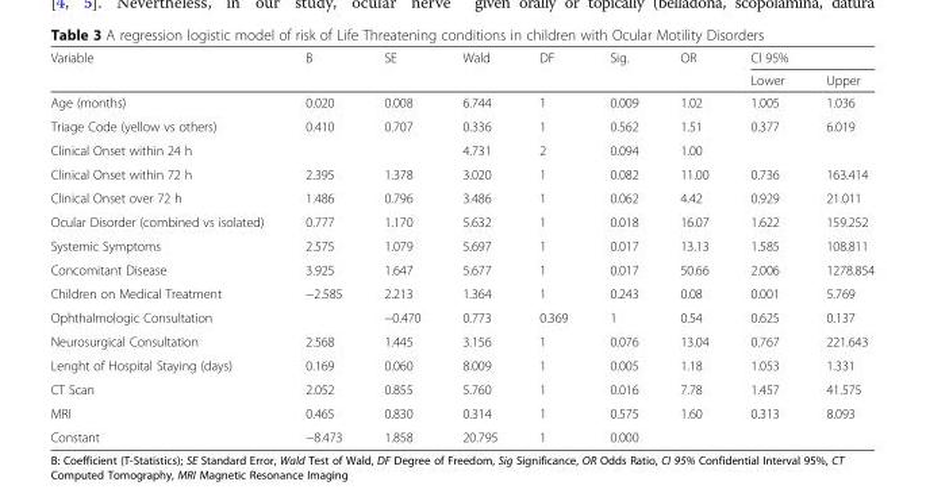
<table><thead><tr><td rowspan="2">Variable</td><td rowspan="2">B</td><td rowspan="2">SE</td><td rowspan="2">Wald</td><td rowspan="2">DF</td><td rowspan="2">Sig.</td><td rowspan="2">OR</td><td colspan="2">Cl 95%</td></tr><tr><td>Lower</td><td>Upper</td></tr></thead><tbody><tr><td>Age (months)</td><td>0.020</td><td>0.008</td><td>6.744</td><td>1</td><td>0.009</td><td>1.02</td><td>1.005</td><td>1.036</td></tr><tr><td>Triage Code (yellow vs others)</td><td>0.410</td><td>0.707</td><td>0.336</td><td>1</td><td>0.562</td><td>1.51</td><td>0.377</td><td>6.019</td></tr><tr><td>Clinical Onset within 24 h</td><td></td><td></td><td>4.731</td><td>2</td><td>0.094</td><td>1.00</td><td></td><td></td></tr><tr><td>Clinical Onset within 72 h</td><td>2.395</td><td>1.378</td><td>3.020</td><td>1</td><td>0.082</td><td>11.00</td><td>0.736</td><td>163.414</td></tr><tr><td>Clinical Onset over 72 h</td><td>1.486</td><td>0.796</td><td>3.486</td><td>1</td><td>0.062</td><td>4.42</td><td>0.929</td><td>21.011</td></tr><tr><td>Ocular Disorder (combined vs isolated)</td><td>0.777</td><td>1.170</td><td>5.632</td><td>1</td><td>0.018</td><td>16.07</td><td>1.622</td><td>159.252</td></tr><tr><td>Systemic Symptoms</td><td>2.575</td><td>1.079</td><td>5.697</td><td>1</td><td>0.017</td><td>13.13</td><td>1.585</td><td>108.811</td></tr><tr><td>Concomitant Disease</td><td>3.925</td><td>1.647</td><td>5.677</td><td>1</td><td>0.017</td><td>50.66</td><td>2.006</td><td>1278.854</td></tr><tr><td>Children on Medical Treatment</td><td>−2.585</td><td>2.213</td><td>1.364</td><td>1</td><td>0.243</td><td>0.08</td><td>0.001</td><td>5.769</td></tr><tr><td>Ophthalmologic Consultation</td><td></td><td>−0.470</td><td>0.773</td><td>0.369</td><td>1</td><td>0.54</td><td>0.625</td><td>0.137</td></tr><tr><td>Neurosurgical Consultation</td><td>2.568</td><td>1.445</td><td>3.156</td><td>1</td><td>0.076</td><td>13.04</td><td>0.767</td><td>221.643</td></tr><tr><td>Lenght of Hospital Staying (days)</td><td>0.169</td><td>0.060</td><td>8.009</td><td>1</td><td>0.005</td><td>1.18</td><td>1.053</td><td>1.331</td></tr><tr><td>CT Scan</td><td>2.052</td><td>0.855</td><td>5.760</td><td>1</td><td>0.016</td><td>7.78</td><td>1.457</td><td>41.575</td></tr><tr><td>MRI</td><td>0.465</td><td>0.830</td><td>0.314</td><td>1</td><td>0.575</td><td>1.60</td><td>0.313</td><td>8.093</td></tr><tr><td>Constant</td><td>−8.473</td><td>1.858</td><td>20.795</td><td>1</td><td>0.000</td><td></td><td></td><td></td></tr></tbody></table>